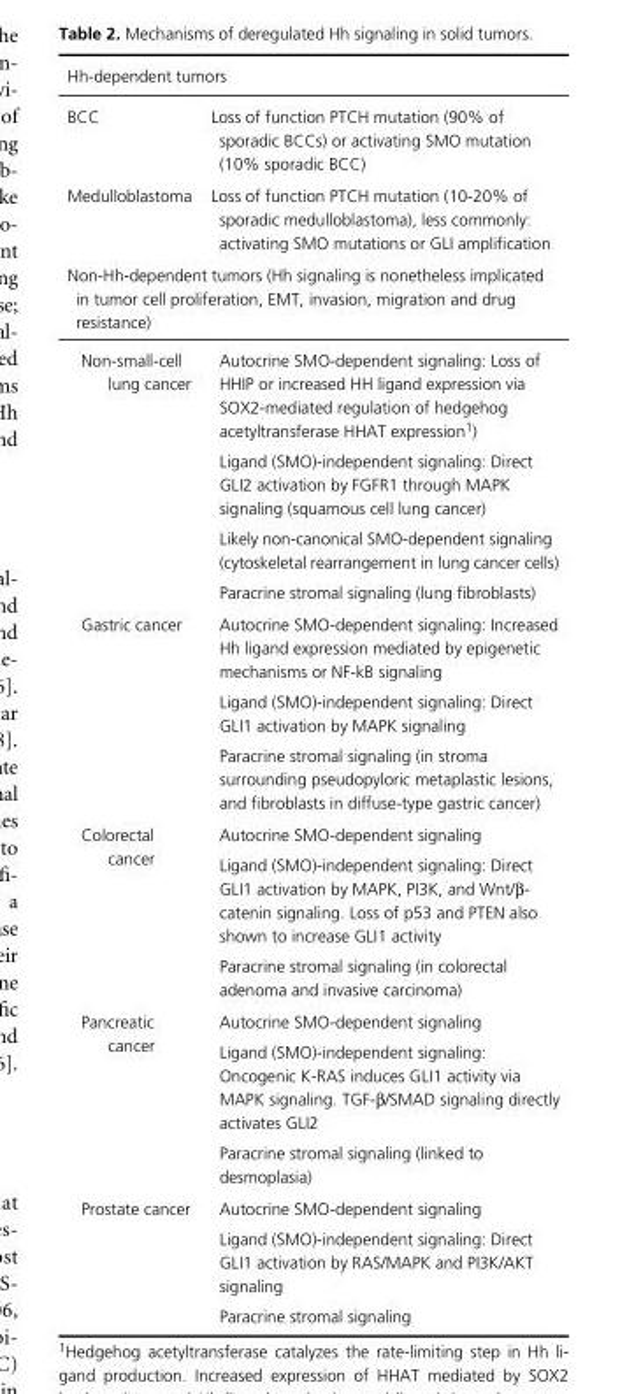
<table><thead><tr><td colspan="2">Hh- dependent tumors</td></tr><tr><td>BCC</td><td>Loss of function PTCH mutation (90% of sporadic BCCs) or activating SMO mutation (10% sporadic BCC)</td></tr></thead><tbody><tr><td>Medulloblastoma</td><td>Loss of function PTCH mutation (10- 20% of sporadic medulloblastoma), less commonly: activating SMO mutations or GLI amplification</td></tr><tr><td colspan="2">Non- Hh- dependent tumors (Hh signaling is nonetheless implicated in tumor cell proliferation, EMT, invasion, migration and drug resistance)</td></tr><tr><td>Non- small- cell lung cancer</td><td>Autocrine SMO-dependent signaling: Loss of HHIP or increased HH ligand expression via SOX2- mediated regulation of hedgehog acetyltransferase HHAT expression1) Ligand (SMO)- independent signaling: Direct GLI2 activation by FGFR1 through MAPK signaling (squamous cell lung cancer) Likely non-canonical SMO- dependent signaling (cytoskeletal rearrangement in lung cancer cells) Paracrine stromal signaling (lung fibroblasts)</td></tr><tr><td>Gastric cancer</td><td>Autocrine SMO- dependent signaling: Increased Hh ligand expression mediated by epigenetic mechanisms or NF-kB signaling Ligand (SMO)- independent signaling: Direct GLI1 activation by MAPK signaling Paracrine stromal signaling (in stroma surrounding pseudopyloric metaplastic lesions, and fibroblasts in diffuse- type gastric cancer)</td></tr><tr><td>Colorectal cancer</td><td>Autocrine SMO- dependent signaling Ligand (SMO)- independent signaling: Direct GLI1 activation by MAPK, PI3K, and Wnt/β- catenin signaling. Loss of p53 and PTEN also shown to increase GLI1 activity Paracrine stromal signaling (in colorectal adenoma and invasive carcinoma)</td></tr><tr><td>Pancreatic cancer</td><td>Autocrine SMO- dependent signaling Ligand (SMO)- independent signaling: Oncogenic K- RAS induces GLI1 activity via MAPK signaling. TGF-β/SMAD signaling directly activates GLI2 Paracrine stromal signaling (linked to desmoplasia)</td></tr><tr><td>Prostate cancer</td><td>Autocrine SMO- dependent signaling Ligand (SMO)- independent signaling: Direct GLI1 activation by RAS/MAPK and PI3K/AKT signaling Paracrine stromal signaling</td></tr></tbody></table>